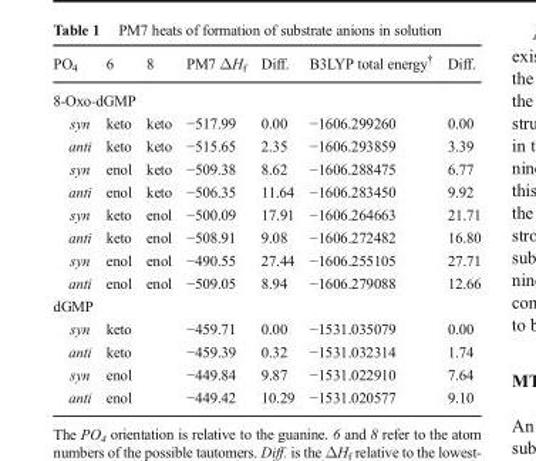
<table><thead><tr><td>PO<sub>4</sub></td><td>6</td><td>8</td><td>PM7 ΔH<sub>f</sub></td><td>Diff.</td><td>B3LYP total energy<sup>†</sup></td><td>Diff.</td></tr></thead><tbody><tr><td colspan="7">8-Oxo-dGMP</td></tr><tr><td>syn</td><td>keto</td><td>keto</td><td>−517.99</td><td>0.00</td><td>−1606.299260</td><td>0.00</td></tr><tr><td>anti</td><td>keto</td><td>keto</td><td>−515.65</td><td>2.35</td><td>−1606.293859</td><td>3.39</td></tr><tr><td>syn</td><td>enol</td><td>keto</td><td>−509.38</td><td>8.62</td><td>−1606.288475</td><td>6.77</td></tr><tr><td>anti</td><td>enol</td><td>keto</td><td>−506.35</td><td>11.64</td><td>−1606.283450</td><td>9.92</td></tr><tr><td>syn</td><td>keto</td><td>enol</td><td>−500.09</td><td>17.91</td><td>−1606.264663</td><td>21.71</td></tr><tr><td>anti</td><td>keto</td><td>enol</td><td>−508.91</td><td>9.08</td><td>−1606.272482</td><td>16.80</td></tr><tr><td>syn</td><td>enol</td><td>enol</td><td>−490.55</td><td>27.44</td><td>−1606.255105</td><td>27.71</td></tr><tr><td>anti</td><td>enol</td><td>enol</td><td>−509.05</td><td>8.94</td><td>−1606.279088</td><td>12.66</td></tr><tr><td colspan="7">dGMP</td></tr><tr><td>syn</td><td>keto</td><td></td><td>−459.71</td><td>0.00</td><td>−1531.035079</td><td>0.00</td></tr><tr><td>anti</td><td>keto</td><td></td><td>−459.39</td><td>0.32</td><td>−1531.032314</td><td>1.74</td></tr><tr><td>syn</td><td>enol</td><td></td><td>−449.84</td><td>9.87</td><td>−1531.022910</td><td>7.64</td></tr><tr><td>anti</td><td>enol</td><td></td><td>−449.42</td><td>10.29</td><td>−1531.020577</td><td>9.10</td></tr></tbody></table>